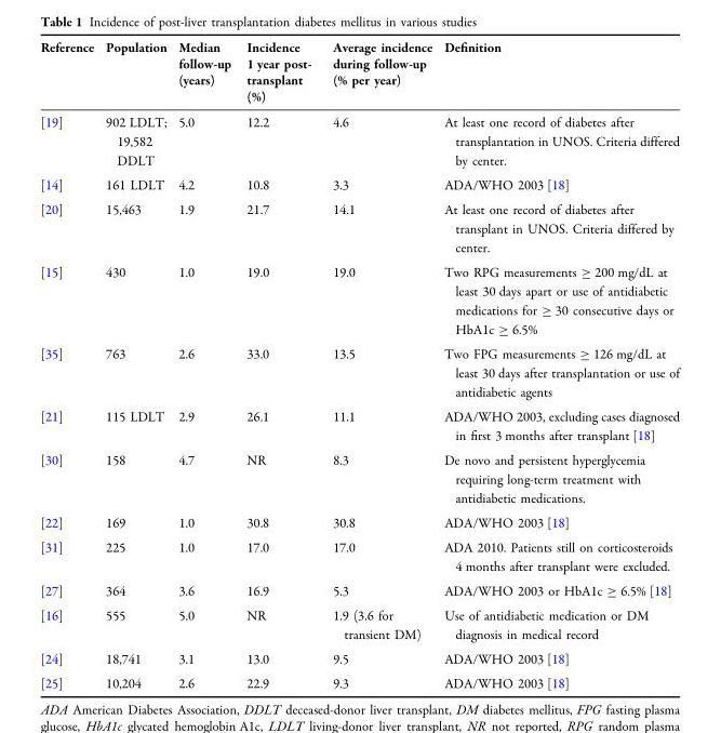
<table><thead><tr><td>Reference</td><td>Population</td><td>Median follow-up (years)</td><td>Incidence 1 year post- transplant (%)</td><td>Average incidence during follow-up (% per year)</td><td>Definition</td></tr></thead><tbody><tr><td>[19]</td><td>902 LDLT; 19,582 DDLT</td><td>5.0</td><td>12.2</td><td>4.6</td><td>At least one record of diabetes after transplantation in UNOS. Criteria differed by center.</td></tr><tr><td>[14]</td><td>161 LDLT</td><td>4.2</td><td>10.8</td><td>3.3</td><td>ADA/WHO 2003 [18]</td></tr><tr><td>[20]</td><td>15,463</td><td>1.9</td><td>21.7</td><td>14.1</td><td>At least one record of diabetes after transplant in UNOS. Criteria differed by center.</td></tr><tr><td>[15]</td><td>430</td><td>1.0</td><td>19.0</td><td>19.0</td><td>Two RPG measurements ≥ 200 mg/dL at least 30 days apart or use of antidiabetic medications for ≥ 30 consecutive days or HbA1c ≥ 6.5%</td></tr><tr><td>[35]</td><td>763</td><td>2.6</td><td>33.0</td><td>13.5</td><td>Two FPG measurements ≥ 126 mg/dL at least 30 days after transplantation or use of antidiabetic agents</td></tr><tr><td>[21]</td><td>115 LDLT</td><td>2.9</td><td>26.1</td><td>11.1</td><td>ADA/WHO 2003, excluding cases diagnosed in first 3 months after transplant [18]</td></tr><tr><td>[30]</td><td>158</td><td>4.7</td><td>NR</td><td>8.3</td><td>De novo and persistent hyperglycemia requiring long-term treatment with antidiabetic medications.</td></tr><tr><td>[22]</td><td>169</td><td>1.0</td><td>30.8</td><td>30.8</td><td>ADA/WHO 2003 [18]</td></tr><tr><td>[31]</td><td>225</td><td>1.0</td><td>17.0</td><td>17.0</td><td>ADA 2010. Patients still on corticosteroids 4 months after transplant were excluded.</td></tr><tr><td>[27]</td><td>364</td><td>3.6</td><td>16.9</td><td>5.3</td><td>ADA/WHO 2003 or HbA1c ≥ 6.5% [18]</td></tr><tr><td>[16]</td><td>555</td><td>5.0</td><td>NR</td><td>1.9 (3.6 for transient DM)</td><td>Use of antidiabetic medication or DM diagnosis in medical record</td></tr><tr><td>[24]</td><td>18,741</td><td>3.1</td><td>13.0</td><td>9.5</td><td>ADA/WHO 2003 [18]</td></tr><tr><td>[25]</td><td>10,204</td><td>2.6</td><td>22.9</td><td>9.3</td><td>ADA/WHO 2003 [18]</td></tr></tbody></table>